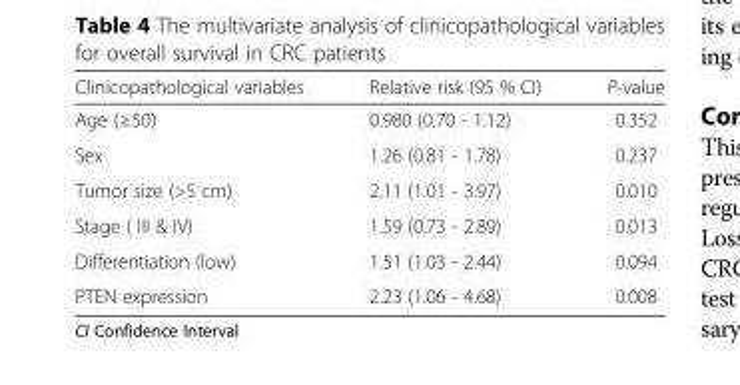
<table><thead><tr><td>Clinicopathological variables</td><td>Relative risk (95 % CI)</td><td>P-value</td></tr></thead><tbody><tr><td>Age (≥50)</td><td>0.980 (0.70 - 1.12)</td><td>0.352</td></tr><tr><td>Sex</td><td>1.26 (0.81 - 1.78)</td><td>0.237</td></tr><tr><td>Tumor size (&gt;5 cm)</td><td>2.11 (1.01 - 3.97)</td><td>0.010</td></tr><tr><td>Stage ( III &amp; IV)</td><td>1.59 (0.73 - 2.89)</td><td>0.013</td></tr><tr><td>Differentiation (low)</td><td>1.51 (1.03 - 2.44)</td><td>0.094</td></tr><tr><td>PTEN expression</td><td>2.23 (1.06 - 4.68)</td><td>0.008</td></tr></tbody></table>